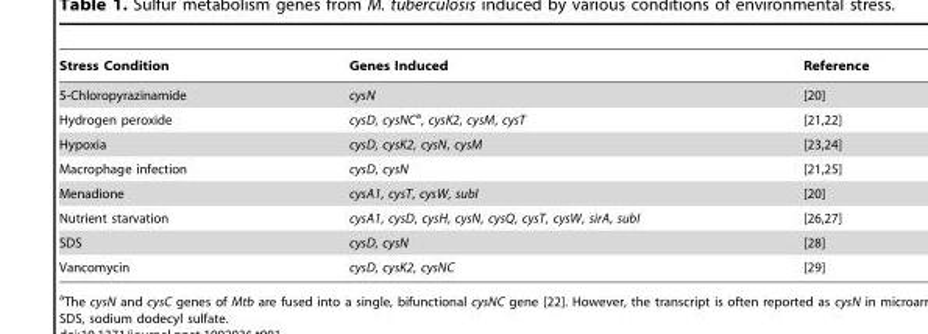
<table><thead><tr><td>Stress Condition</td><td>Genes Induced</td><td>Reference</td></tr></thead><tbody><tr><td>5-Chloropyrazinamide</td><td>cysN</td><td>[20]</td></tr><tr><td>Hydrogen peroxide</td><td>cysD, cysNCa, cysK2, cysM, cysT</td><td>[21,22]</td></tr><tr><td>Hypoxia</td><td>cysD, cysK2, cysN, cysM</td><td>[23,24]</td></tr><tr><td>Macrophage infection</td><td>cysD, cysN</td><td>[21,25]</td></tr><tr><td>Menadione</td><td>cysA1, cysT, cysW, subI</td><td>[20]</td></tr><tr><td>Nutrient starvation</td><td>cysA1, cysD, cysH, cysN, cysQ, cysT, cysW, sirA, subI</td><td>[26,27]</td></tr><tr><td>SDS</td><td>cysD, cysN</td><td>[28]</td></tr><tr><td>Vancomycin</td><td>cysD, cysK2, cysNC</td><td>[29]</td></tr></tbody></table>